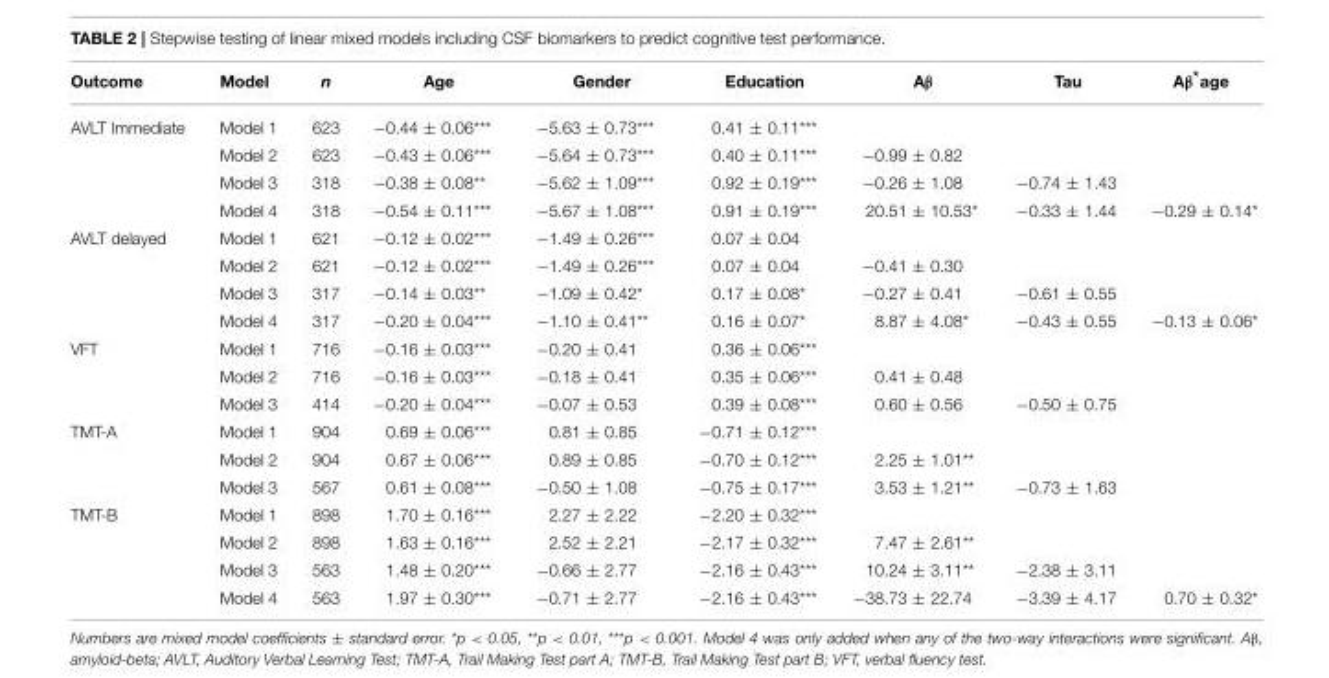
<table><thead><tr><td>Outcome</td><td>Model</td><td>n</td><td>Age</td><td>Gender</td><td>Education</td><td>Aβ</td><td>Tau</td><td>Aβ*age</td></tr></thead><tbody><tr><td rowspan="4">AVLT Immediate</td><td>Model 1</td><td>623</td><td>−0.44 ± 0.06***</td><td>−5.63 ± 0.73***</td><td>0.41 ± 0.11***</td><td></td><td></td><td></td></tr><tr><td>Model 2</td><td>623</td><td>−0.43 ± 0.06***</td><td>−5.64 ± 0.73***</td><td>0.40 ± 0.11***</td><td>−0.99 ± 0.82</td><td></td><td></td></tr><tr><td>Model 3</td><td>318</td><td>−0.38 ± 0.08**</td><td>−5.62 ± 1.09***</td><td>0.92 ± 0.19***</td><td>−0.26 ± 1.08</td><td>−0.74 ± 1.43</td><td></td></tr><tr><td>Model 4</td><td>318</td><td>−0.54 ± 0.11***</td><td>−5.67 ± 1.08***</td><td>0.91 ± 0.19***</td><td>20.51 ± 10.53*</td><td>−0.33 ± 1.44</td><td>−0.29 ± 0.14*</td></tr><tr><td rowspan="4">AVLT delayed</td><td>Model 1</td><td>621</td><td>−0.12 ± 0.02***</td><td>−1.49 ± 0.26***</td><td>0.07 ± 0.04</td><td></td><td></td><td></td></tr><tr><td>Model 2</td><td>621</td><td>−0.12 ± 0.02***</td><td>−1.49 ± 0.26***</td><td>0.07 ± 0.04</td><td>−0.41 ± 0.30</td><td></td><td></td></tr><tr><td>Model 3</td><td>317</td><td>−0.14 ± 0.03**</td><td>−1.09 ± 0.42*</td><td>0.17 ± 0.08*</td><td>−0.27 ± 0.41</td><td>−0.61 ± 0.55</td><td></td></tr><tr><td>Model 4</td><td>317</td><td>−0.20 ± 0.04***</td><td>−1.10 ± 0.41**</td><td>0.16 ± 0.07*</td><td>8.87 ± 4.08*</td><td>−0.43 ± 0.55</td><td>−0.13 ± 0.06*</td></tr><tr><td rowspan="3">VFT</td><td>Model 1</td><td>716</td><td>−0.16 ± 0.03***</td><td>−0.20 ± 0.41</td><td>0.36 ± 0.06***</td><td></td><td></td><td></td></tr><tr><td>Model 2</td><td>716</td><td>−0.16 ± 0.03***</td><td>−0.18 ± 0.41</td><td>0.35 ± 0.06***</td><td>0.41 ± 0.48</td><td></td><td></td></tr><tr><td>Model 3</td><td>414</td><td>−0.20 ± 0.04***</td><td>−0.07 ± 0.53</td><td>0.39 ± 0.08***</td><td>0.60 ± 0.56</td><td>−0.50 ± 0.75</td><td></td></tr><tr><td rowspan="3">TMT-A</td><td>Model 1</td><td>904</td><td>0.69 ± 0.06***</td><td>0.81 ± 0.85</td><td>−0.71 ± 0.12***</td><td></td><td></td><td></td></tr><tr><td>Model 2</td><td>904</td><td>0.67 ± 0.06***</td><td>0.89 ± 0.85</td><td>−0.70 ± 0.12***</td><td>2.25 ± 1.01**</td><td></td><td></td></tr><tr><td>Model 3</td><td>567</td><td>0.61 ± 0.08***</td><td>−0.50 ± 1.08</td><td>−0.75 ± 0.17***</td><td>3.53 ± 1.21**</td><td>−0.73 ± 1.63</td><td></td></tr><tr><td rowspan="4">TMT-B</td><td>Model 1</td><td>898</td><td>1.70 ± 0.16***</td><td>2.27 ± 2.22</td><td>−2.20 ± 0.32***</td><td></td><td></td><td></td></tr><tr><td>Model 2</td><td>898</td><td>1.63 ± 0.16***</td><td>2.52 ± 2.21</td><td>−2.17 ± 0.32***</td><td>7.47 ± 2.61**</td><td></td><td></td></tr><tr><td>Model 3</td><td>563</td><td>1.48 ± 0.20***</td><td>−0.66 ± 2.77</td><td>−2.16 ± 0.43***</td><td>10.24 ± 3.11**</td><td>−2.38 ± 3.11</td><td></td></tr><tr><td>Model 4</td><td>563</td><td>1.97 ± 0.30***</td><td>−0.71 ± 2.77</td><td>−2.16 ± 0.43***</td><td>−38.73 ± 22.74</td><td>−3.39 ± 4.17</td><td>0.70 ± 0.32*</td></tr></tbody></table>